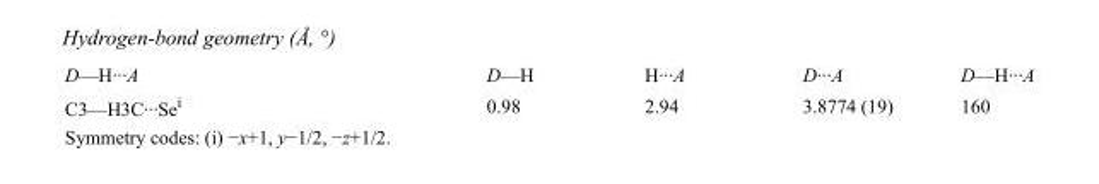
<table><tbody><tr><td>D—H···A</td><td>D—H</td><td>H···A</td><td>D···A</td><td>D—H···A</td></tr><tr><td>C3—H3C···Se<sup>i</sup></td><td>0.98</td><td>2.94</td><td>3.8774 (19)</td><td>160</td></tr></tbody></table>